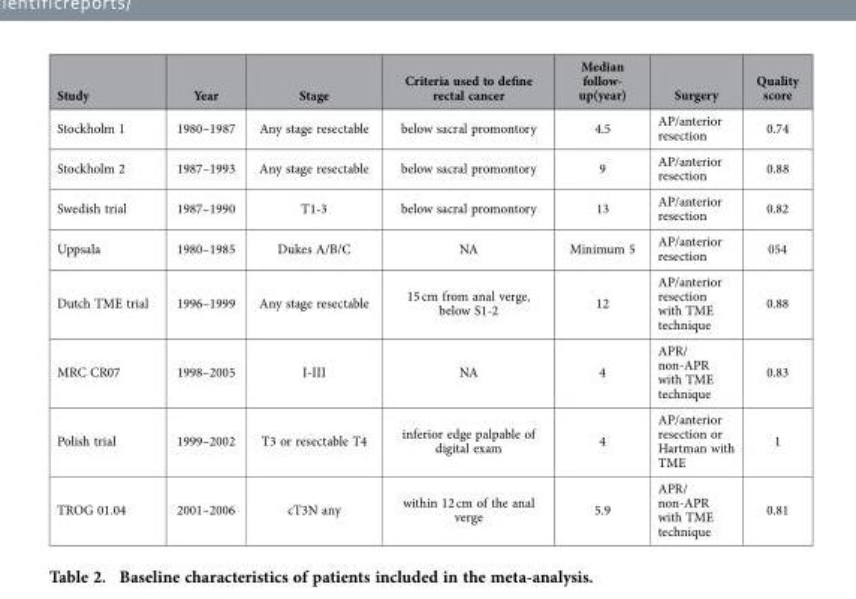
<table><thead><tr><td>Study</td><td>Year</td><td>Stage</td><td>Criteria used to define rectal cancer</td><td>Median follow- up(year)</td><td>Surgery</td><td>Quality score</td></tr></thead><tbody><tr><td>Stockholm 1</td><td>1980–1987</td><td>Any stage resectable</td><td>below sacral promontory</td><td>4.5</td><td>AP/anterior resection</td><td>0.74</td></tr><tr><td>Stockholm 2</td><td>1987–1993</td><td>Any stage resectable</td><td>below sacral promontory</td><td>9</td><td>AP/anterior resection</td><td>0.88</td></tr><tr><td>Swedish trial</td><td>1987–1990</td><td>T1-3</td><td>below sacral promontory</td><td>13</td><td>AP/anterior resection</td><td>0.82</td></tr><tr><td>Uppsala</td><td>1980–1985</td><td>Dukes A/B/C</td><td>NA</td><td>Minimum 5</td><td>AP/anterior resection</td><td>054</td></tr><tr><td>Dutch TME trial</td><td>1996–1999</td><td>Any stage resectable</td><td>15 cm from anal verge, below S1-2</td><td>12</td><td>AP/anterior resection with TME technique</td><td>0.88</td></tr><tr><td>MRC CR07</td><td>1998–2005</td><td>I-III</td><td>NA</td><td>4</td><td>APR/ non-APR with TME technique</td><td>0.83</td></tr><tr><td>Polish trial</td><td>1999–2002</td><td>T3 or resectable T4</td><td>inferior edge palpable of digital exam</td><td>4</td><td>AP/anterior resection or Hartman with TME</td><td>1</td></tr><tr><td>TROG 01.04</td><td>2001–2006</td><td>cT3N any</td><td>within 12 cm of the anal verge</td><td>5.9</td><td>APR/ non-APR with TME technique</td><td>0.81</td></tr></tbody></table>